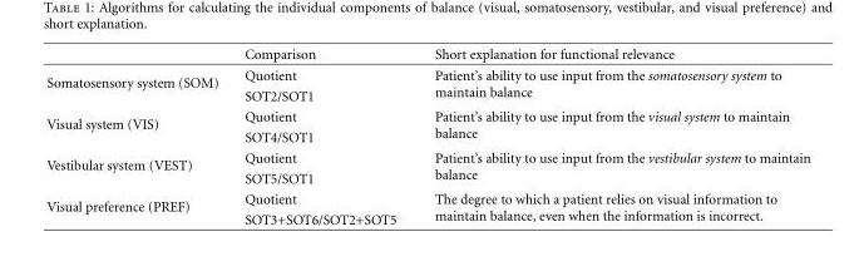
<table><thead><tr><td></td><td>Comparison</td><td>Short explanation for functional relevance</td></tr></thead><tbody><tr><td rowspan="2">Somatosensory system (SOM)</td><td>Quotient</td><td rowspan="2">Patient’s ability to use input from the somatosensory system to maintain balance</td></tr><tr><td>SOT2/SOT1</td></tr><tr><td rowspan="2">Visual system (VIS)</td><td>Quotient</td><td rowspan="2">Patient’s ability to use input from the visual system to maintain balance</td></tr><tr><td>SOT4/SOT1</td></tr><tr><td rowspan="2">Vestibular system (VEST)</td><td>Quotient</td><td rowspan="2">Patient’s ability to use input from the vestibular system to maintain balance</td></tr><tr><td>SOT5/SOT1</td></tr><tr><td rowspan="2">Visual preference (PREF)</td><td>Quotient</td><td rowspan="2">The degree to which a patient relies on visual information to maintain balance, even when the information is incorrect.</td></tr><tr><td>SOT3+SOT6/SOT2+SOT5</td></tr></tbody></table>